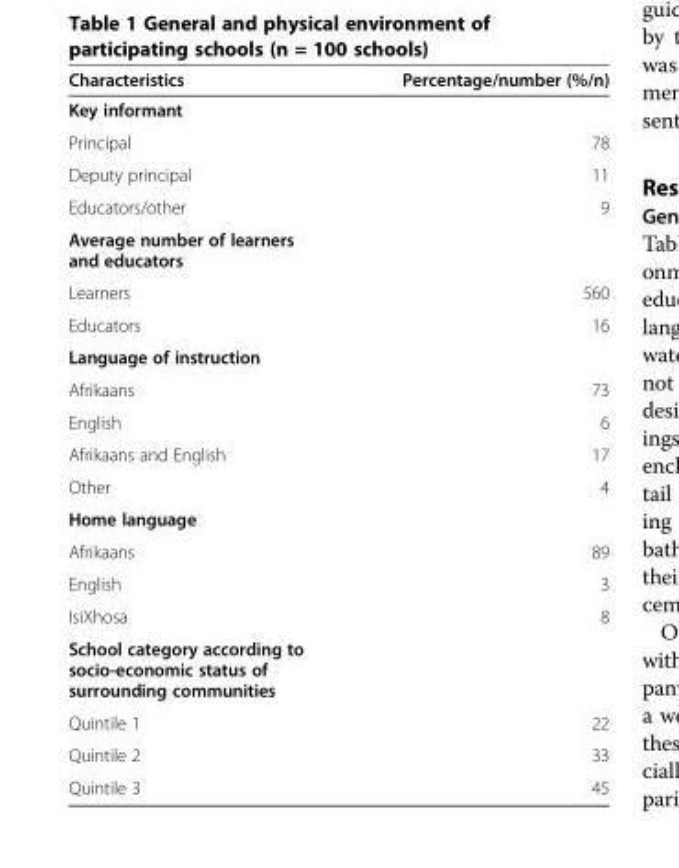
<table><thead><tr><td>Characteristics</td><td>Percentage/number (%/n)</td></tr></thead><tbody><tr><td colspan="2">Key informant</td></tr><tr><td>Principal</td><td>78</td></tr><tr><td>Deputy principal</td><td>11</td></tr><tr><td>Educators/other</td><td>9</td></tr><tr><td colspan="2">Average number of learners and educators</td></tr><tr><td>Learners</td><td>560</td></tr><tr><td>Educators</td><td>16</td></tr><tr><td colspan="2">Language of instruction</td></tr><tr><td>Afrikaans</td><td>73</td></tr><tr><td>English</td><td>6</td></tr><tr><td>Afrikaans and English</td><td>17</td></tr><tr><td>Other</td><td>4</td></tr><tr><td colspan="2">Home language</td></tr><tr><td>Afrikaans</td><td>89</td></tr><tr><td>English</td><td>3</td></tr><tr><td>IsiXhosa</td><td>8</td></tr><tr><td colspan="2">School category according to socio-economic status of surrounding communities</td></tr><tr><td>Quintile 1</td><td>22</td></tr><tr><td>Quintile 2</td><td>33</td></tr><tr><td>Quintile 3</td><td>45</td></tr></tbody></table>